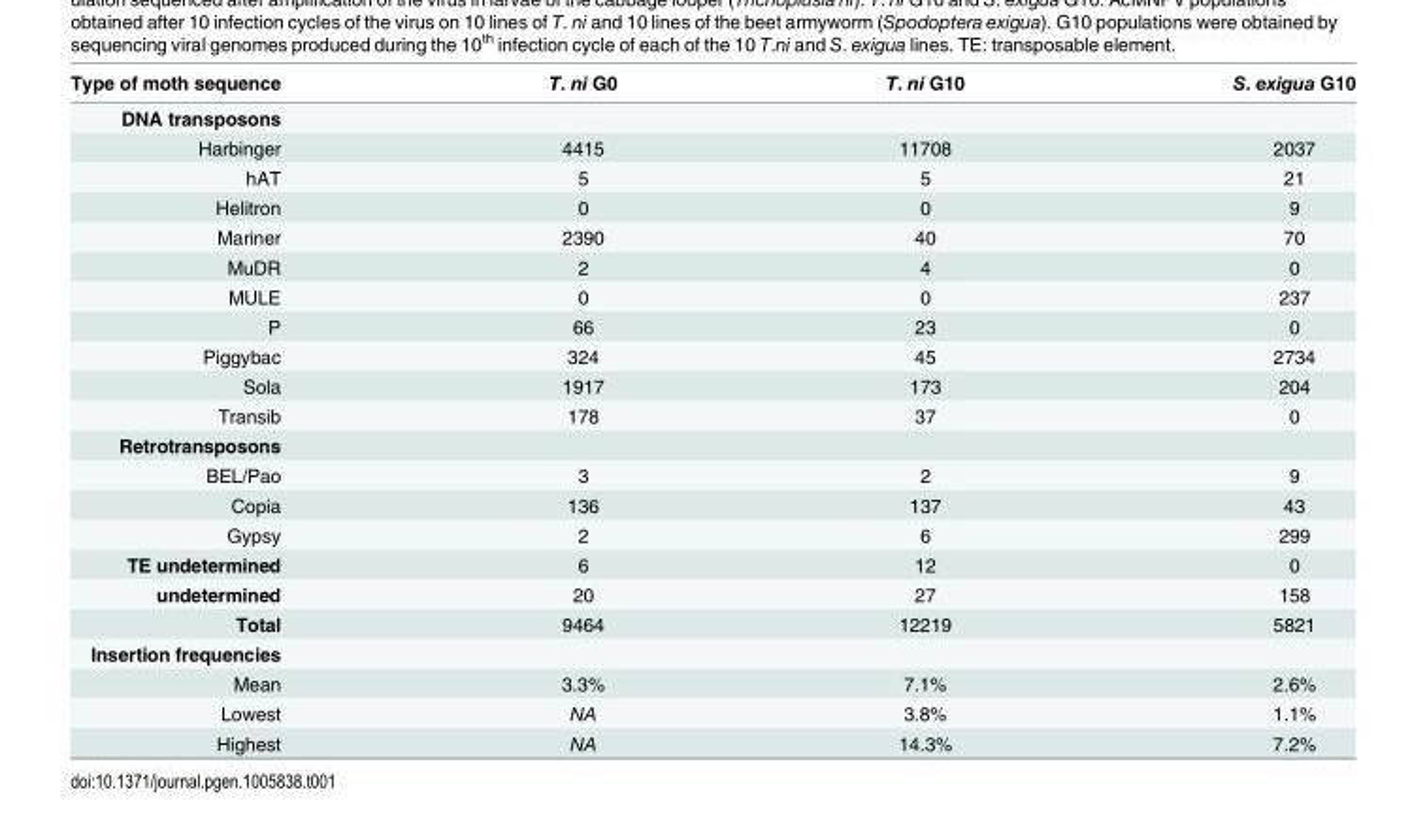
<table><thead><tr><td>Type of moth sequence</td><td>T. ni G0</td><td>T. ni G10</td><td>S. exigua G10</td></tr></thead><tbody><tr><td colspan="4">DNA transposons</td></tr><tr><td>Harbinger</td><td>4415</td><td>11708</td><td>2037</td></tr><tr><td>hAT</td><td>5</td><td>5</td><td>21</td></tr><tr><td>Helitron</td><td>0</td><td>0</td><td>9</td></tr><tr><td>Mariner</td><td>2390</td><td>40</td><td>70</td></tr><tr><td>MuDR</td><td>2</td><td>4</td><td>0</td></tr><tr><td>MULE</td><td>0</td><td>0</td><td>237</td></tr><tr><td>P</td><td>66</td><td>23</td><td>0</td></tr><tr><td>Piggybac</td><td>324</td><td>45</td><td>2734</td></tr><tr><td>Sola</td><td>1917</td><td>173</td><td>204</td></tr><tr><td>Transib</td><td>178</td><td>37</td><td>0</td></tr><tr><td colspan="4">Retrotransposons</td></tr><tr><td>BEL/Pao</td><td>3</td><td>2</td><td>9</td></tr><tr><td>Copia</td><td>136</td><td>137</td><td>43</td></tr><tr><td>Gypsy</td><td>2</td><td>6</td><td>299</td></tr><tr><td>TE undetermined</td><td>6</td><td>12</td><td>0</td></tr><tr><td>undetermined</td><td>20</td><td>27</td><td>158</td></tr><tr><td>Total</td><td>9464</td><td>12219</td><td>5821</td></tr><tr><td colspan="4">Insertion frequencies</td></tr><tr><td>Mean</td><td>3.3%</td><td>7.1%</td><td>2.6%</td></tr><tr><td>Lowest</td><td>NA</td><td>3.8%</td><td>1.1%</td></tr><tr><td>Highest</td><td>NA</td><td>14.3%</td><td>7.2%</td></tr></tbody></table>